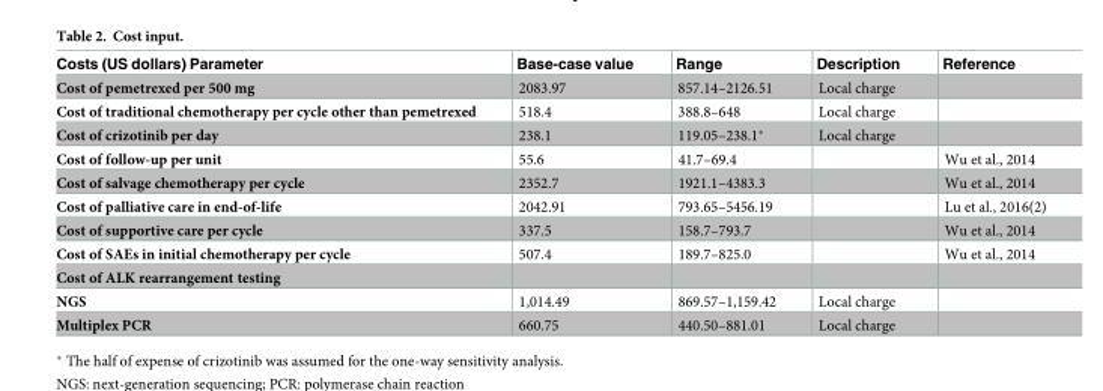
<table><thead><tr><td>Costs (US dollars) Parameter</td><td>Base-case value</td><td>Range</td><td>Description</td><td>Reference</td></tr></thead><tbody><tr><td>Cost of pemetrexed per 500 mg</td><td>2083.97</td><td>857.14–2126.51</td><td>Local charge</td><td></td></tr><tr><td>Cost of traditional chemotherapy per cycle other than pemetrexed</td><td>518.4</td><td>388.8–648</td><td>Local charge</td><td></td></tr><tr><td>Cost of crizotinib per day</td><td>238.1</td><td>119.05–238.1*</td><td>Local charge</td><td></td></tr><tr><td>Cost of follow-up per unit</td><td>55.6</td><td>41.7–69.4</td><td></td><td>Wu et al., 2014</td></tr><tr><td>Cost of salvage chemotherapy per cycle</td><td>2352.7</td><td>1921.1–4383.3</td><td></td><td>Wu et al., 2014</td></tr><tr><td>Cost of palliative care in end-of-life</td><td>2042.91</td><td>793.65–5456.19</td><td></td><td>Lu et al., 2016(2)</td></tr><tr><td>Cost of supportive care per cycle</td><td>337.5</td><td>158.7–793.7</td><td></td><td>Wu et al., 2014</td></tr><tr><td>Cost of SAEs in initial chemotherapy per cycle</td><td>507.4</td><td>189.7–825.0</td><td></td><td>Wu et al., 2014</td></tr><tr><td colspan="5">Cost of ALK rearrangement testing</td></tr><tr><td>NGS</td><td>1,014.49</td><td>869.57–1,159.42</td><td>Local charge</td><td></td></tr><tr><td>Multiplex PCR</td><td>660.75</td><td>440.50–881.01</td><td>Local charge</td><td></td></tr></tbody></table>